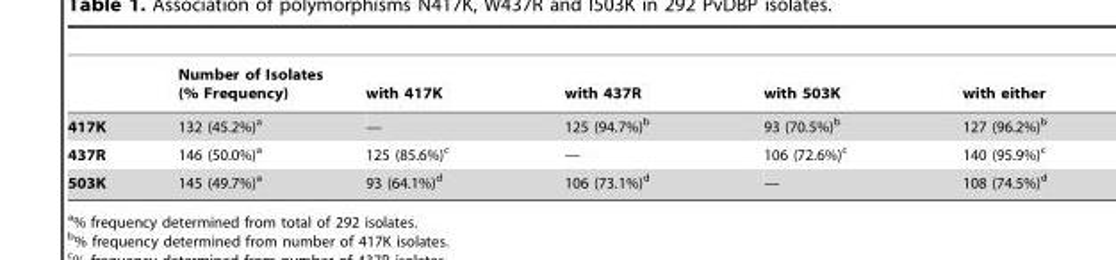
<table><thead><tr><td></td><td>Number of Isolates (% Frequency)</td><td>with 417K</td><td>with 437R</td><td>with 503K</td><td>with either</td></tr></thead><tbody><tr><td>417K</td><td>132 (45.2%)<sup>a</sup></td><td>—</td><td>125 (94.7%)<sup>b</sup></td><td>93 (70.5%)<sup>b</sup></td><td>127 (96.2%)<sup>b</sup></td></tr><tr><td>437R</td><td>146 (50.0%)<sup>a</sup></td><td>125 (85.6%)<sup>c</sup></td><td>—</td><td>106 (72.6%)<sup>c</sup></td><td>140 (95.9%)<sup>c</sup></td></tr><tr><td>503K</td><td>145 (49.7%)<sup>a</sup></td><td>93 (64.1%)<sup>d</sup></td><td>106 (73.1%)<sup>d</sup></td><td>—</td><td>108 (74.5%)<sup>d</sup></td></tr></tbody></table>